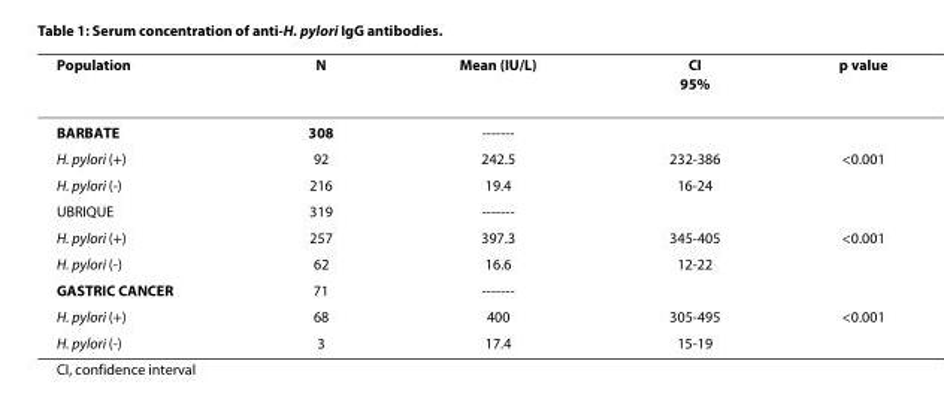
<table><thead><tr><td>Population</td><td>N</td><td>Mean (IU/L)</td><td>CI 95%</td><td>p value</td></tr></thead><tbody><tr><td>BARBATE</td><td>308</td><td>-------</td><td></td><td></td></tr><tr><td>H. pylori (+)</td><td>92</td><td>242.5</td><td>232-386</td><td>&lt;0.001</td></tr><tr><td>H. pylori (-)</td><td>216</td><td>19.4</td><td>16-24</td><td></td></tr><tr><td>UBRIQUE</td><td>319</td><td>-------</td><td></td><td></td></tr><tr><td>H. pylori (+)</td><td>257</td><td>397.3</td><td>345-405</td><td>&lt;0.001</td></tr><tr><td>H. pylori (-)</td><td>62</td><td>16.6</td><td>12-22</td><td></td></tr><tr><td>GASTRIC CANCER</td><td>71</td><td>-------</td><td></td><td></td></tr><tr><td>H. pylori (+)</td><td>68</td><td>400</td><td>305-495</td><td>&lt;0.001</td></tr><tr><td>H. pylori (-)</td><td>3</td><td>17.4</td><td>15-19</td><td></td></tr></tbody></table>